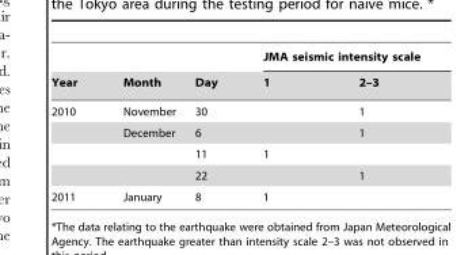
<table><thead><tr><td rowspan="2">Year</td><td rowspan="2">Month</td><td rowspan="2">Day</td><td colspan="2">JMA seismic intensity scale</td></tr><tr><td>1</td><td>2–3</td></tr></thead><tbody><tr><td rowspan="4">2010</td><td>November</td><td>30</td><td></td><td>1</td></tr><tr><td>December</td><td>6</td><td></td><td>1</td></tr><tr><td></td><td>11</td><td>1</td><td></td></tr><tr><td></td><td>22</td><td></td><td>1</td></tr><tr><td>2011</td><td>January</td><td>8</td><td>1</td><td></td></tr></tbody></table>